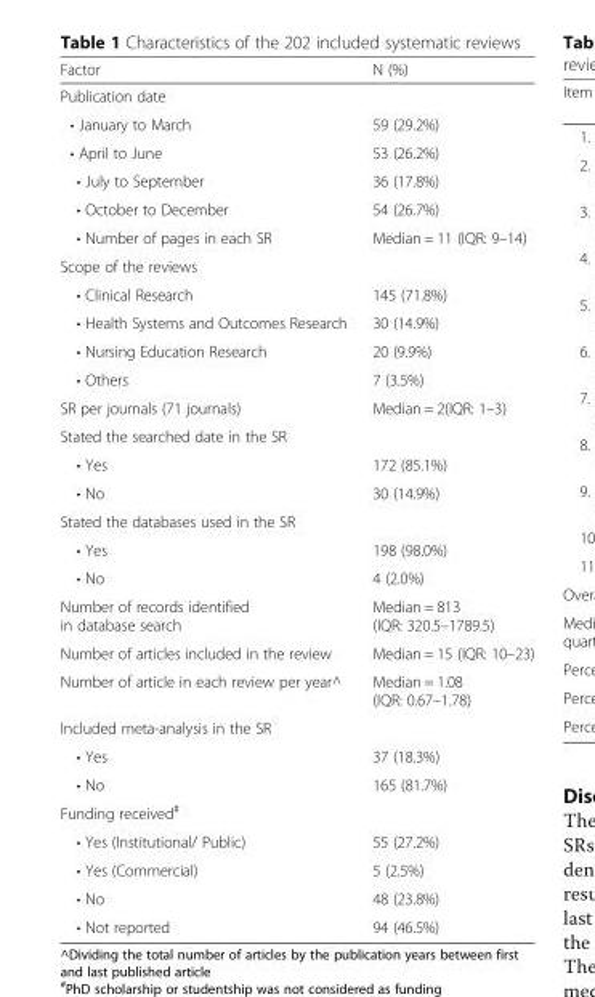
<table><thead><tr><td>Factor</td><td>N (%)</td></tr></thead><tbody><tr><td colspan="2">Publication date</td></tr><tr><td>• January to March</td><td>59 (29.2%)</td></tr><tr><td>• April to June</td><td>53 (26.2%)</td></tr><tr><td>• July to September</td><td>36 (17.8%)</td></tr><tr><td>• October to December</td><td>54 (26.7%)</td></tr><tr><td>• Number of pages in each SR</td><td>Median = 11 (IQR: 9–14)</td></tr><tr><td colspan="2">Scope of the reviews</td></tr><tr><td>• Clinical Research</td><td>145 (71.8%)</td></tr><tr><td>• Health Systems and Outcomes Research</td><td>30 (14.9%)</td></tr><tr><td>• Nursing Education Research</td><td>20 (9.9%)</td></tr><tr><td>• Others</td><td>7 (3.5%)</td></tr><tr><td>SR per journals (71 journals)</td><td>Median = 2(IQR: 1–3)</td></tr><tr><td colspan="2">Stated the searched date in the SR</td></tr><tr><td>• Yes</td><td>172 (85.1%)</td></tr><tr><td>• No</td><td>30 (14.9%)</td></tr><tr><td colspan="2">Stated the databases used in the SR</td></tr><tr><td>• Yes</td><td>198 (98.0%)</td></tr><tr><td>• No</td><td>4 (2.0%)</td></tr><tr><td>Number of records identified in database search</td><td>Median = 813 (IQR: 320.5–1789.5)</td></tr><tr><td>Number of articles included in the review</td><td>Median = 15 (IQR: 10–23)</td></tr><tr><td>Number of article in each review per year^</td><td>Median = 1.08 (IQR: 0.67–1.78)</td></tr><tr><td colspan="2">Included meta-analysis in the SR</td></tr><tr><td>• Yes</td><td>37 (18.3%)</td></tr><tr><td>• No</td><td>165 (81.7%)</td></tr><tr><td colspan="2">Funding received<sup>#</sup></td></tr><tr><td>• Yes (Institutional/ Public)</td><td>55 (27.2%)</td></tr><tr><td>• Yes (Commercial)</td><td>5 (2.5%)</td></tr><tr><td>• No</td><td>48 (23.8%)</td></tr><tr><td>• Not reported</td><td>94 (46.5%)</td></tr></tbody></table>